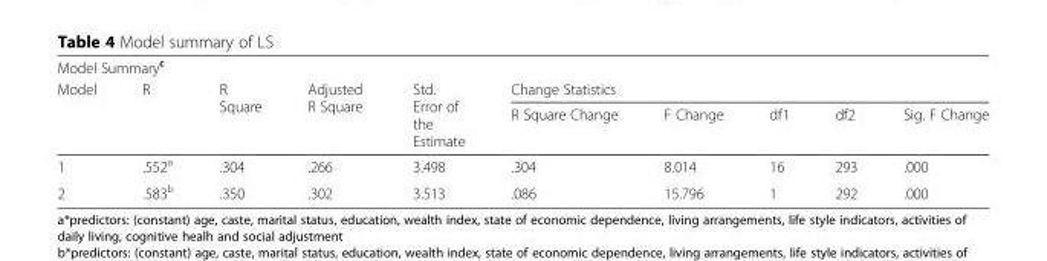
<table><thead><tr><td colspan="10">Model Summary<sup>c</sup></td></tr><tr><td rowspan="2">Model</td><td rowspan="2">R</td><td rowspan="2">R Square</td><td rowspan="2">Adjusted R Square</td><td rowspan="2">Std. Error of the Estimate</td><td colspan="5">Change Statistics</td></tr><tr><td>R Square Change</td><td>F Change</td><td>df1</td><td>df2</td><td>Sig. F Change</td></tr></thead><tbody><tr><td>1</td><td>.552<sup>a</sup></td><td>.304</td><td>.266</td><td>3.498</td><td>.304</td><td>8.014</td><td>16</td><td>293</td><td>.000</td></tr><tr><td>2</td><td>.583<sup>b</sup></td><td>.350</td><td>.302</td><td>3.513</td><td>.086</td><td>15.796</td><td>1</td><td>292</td><td>.000</td></tr></tbody></table>